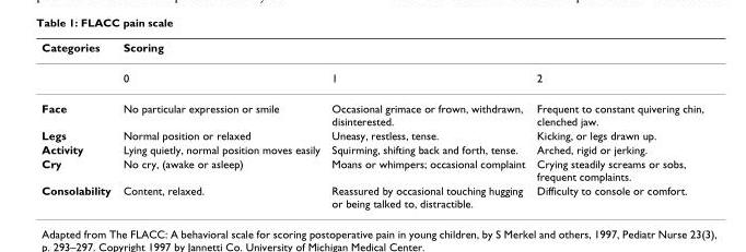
<table><thead><tr><td rowspan="2">Categories</td><td colspan="3">Scoring</td></tr><tr><td>0</td><td>1</td><td>2</td></tr></thead><tbody><tr><td>Face</td><td>No particular expression or smile</td><td>Occasional grimace or frown, withdrawn, disinterested.</td><td>Frequent to constant quivering chin, clenched jaw.</td></tr><tr><td>Legs</td><td>Normal position or relaxed</td><td>Uneasy, restless, tense.</td><td>Kicking, or legs drawn up.</td></tr><tr><td>Activity</td><td>Lying quietly, normal position moves easily</td><td>Squirming, shifting back and forth, tense.</td><td>Arched, rigid or jerking.</td></tr><tr><td>Cry</td><td>No cry, (awake or asleep)</td><td>Moans or whimpers; occasional complaint</td><td>Crying steadily screams or sobs, frequent complaints.</td></tr><tr><td>Consolability</td><td>Content, relaxed.</td><td>Reassured by occasional touching hugging or being talked to, distractible.</td><td>Difficulty to console or comfort.</td></tr></tbody></table>